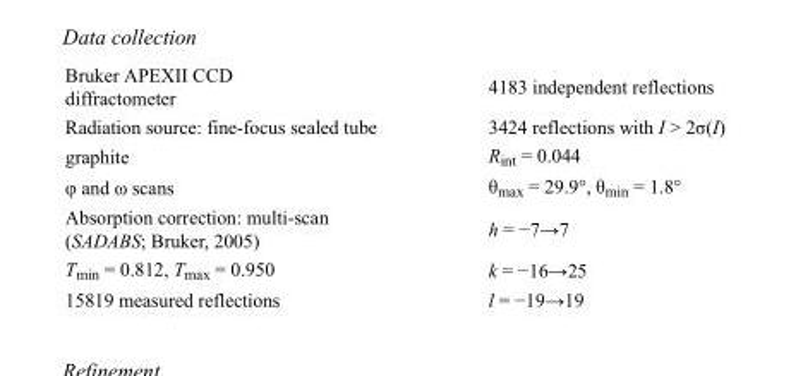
<table><tbody><tr><td>Bruker APEXII CCD diffractometer</td><td>4183 independent reflections</td></tr><tr><td>Radiation source: fine-focus sealed tube</td><td>3424 reflections with I &gt; 2σ(I)</td></tr><tr><td>graphite</td><td>R<sub>int</sub> = 0.044</td></tr><tr><td>φ and ω scans</td><td>θ<sub>max</sub> = 29.9°, θ<sub>min</sub> = 1.8°</td></tr><tr><td>Absorption correction: multi-scan (SADABS; Bruker, 2005)</td><td>h = −7→7</td></tr><tr><td>T<sub>min</sub> = 0.812, T<sub>max</sub> = 0.950</td><td>k = −16→25</td></tr><tr><td>15819 measured reflections</td><td>l = −19→19</td></tr></tbody></table>